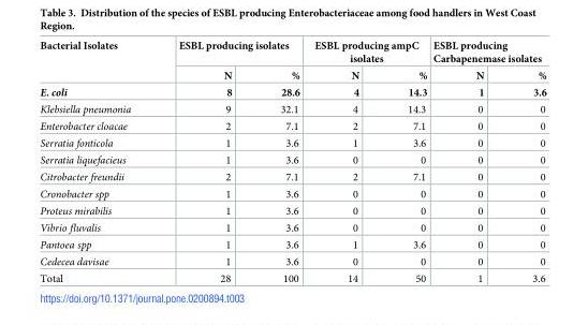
<table><thead><tr><td rowspan="3">Bacterial Isolates E. coli</td><td colspan="2">ESBL producing isolates</td><td colspan="2">ESBL producing ampC isolates</td><td colspan="2">ESBL producing Carbapenemase isolates</td></tr><tr><td rowspan="2">N 8</td><td rowspan="2">% 28.6</td><td rowspan="2">N 4</td><td rowspan="2">% 14.3</td><td rowspan="2">N 1</td><td rowspan="2">% 3.6</td></tr><tr></tr></thead><tbody><tr><td>Klebsiella pneumonia</td><td>9</td><td>32.1</td><td>4</td><td>14.3</td><td>0</td><td>0</td></tr><tr><td>Enterobacter cloacae</td><td>2</td><td>7.1</td><td>2</td><td>7.1</td><td>0</td><td>0</td></tr><tr><td>Serratia fonticola</td><td>1</td><td>3.6</td><td>1</td><td>3.6</td><td>0</td><td>0</td></tr><tr><td>Serratia liquefacieus</td><td>1</td><td>3.6</td><td>0</td><td>0</td><td>0</td><td>0</td></tr><tr><td>Citrobacter freundii</td><td>2</td><td>7.1</td><td>2</td><td>7.1</td><td>0</td><td>0</td></tr><tr><td>Cronobacter spp</td><td>1</td><td>3.6</td><td>0</td><td>0</td><td>0</td><td>0</td></tr><tr><td>Proteus mirabilis</td><td>1</td><td>3.6</td><td>0</td><td>0</td><td>0</td><td>0</td></tr><tr><td>Vibrio fluvalis</td><td>1</td><td>3.6</td><td>0</td><td>0</td><td>0</td><td>0</td></tr><tr><td>Pantoea spp</td><td>1</td><td>3.6</td><td>1</td><td>3.6</td><td>0</td><td>0</td></tr><tr><td>Cedecea davisae</td><td>1</td><td>3.6</td><td>0</td><td>0</td><td>0</td><td>0</td></tr><tr><td>Total</td><td>28</td><td>100</td><td>14</td><td>50</td><td>1</td><td>3.6</td></tr></tbody></table>